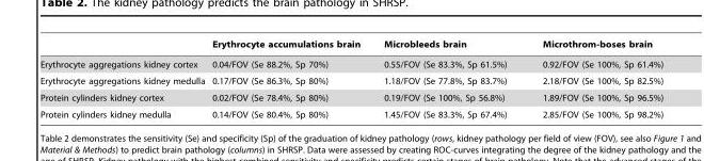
<table><thead><tr><td></td><td>Erythrocyte accumulations brain</td><td>Microbleeds brain</td><td>Microthrom-boses brain</td></tr></thead><tbody><tr><td>Erythrocyte aggregations kidney cortex</td><td>0.04/FOV (Se 88.2%, Sp 70%)</td><td>0.55/FOV (Se 83.3%, Sp 61.5%)</td><td>0.92/FOV (Se 100%, Sp 61.4%)</td></tr><tr><td>Erythrocyte aggregations kidney medulla</td><td>0.17/FOV (Se 86.3%, Sp 80%)</td><td>1.18/FOV (Se 77.8%, Sp 83.7%)</td><td>2.18/FOV (Se 100%, Sp 82.5%)</td></tr><tr><td>Protein cylinders kidney cortex</td><td>0.02/FOV (Se 78.4%, Sp 80%)</td><td>0.19/FOV (Se 100%, Sp 56.8%)</td><td>1.89/FOV (Se 100%, Sp 96.5%)</td></tr><tr><td>Protein cylinders kidney medulla</td><td>0.14/FOV (Se 80.4%, Sp 80%)</td><td>1.45/FOV (Se 83.3%, Sp 67.4%)</td><td>2.85/FOV (Se 100%, Sp 98.2%)</td></tr></tbody></table>